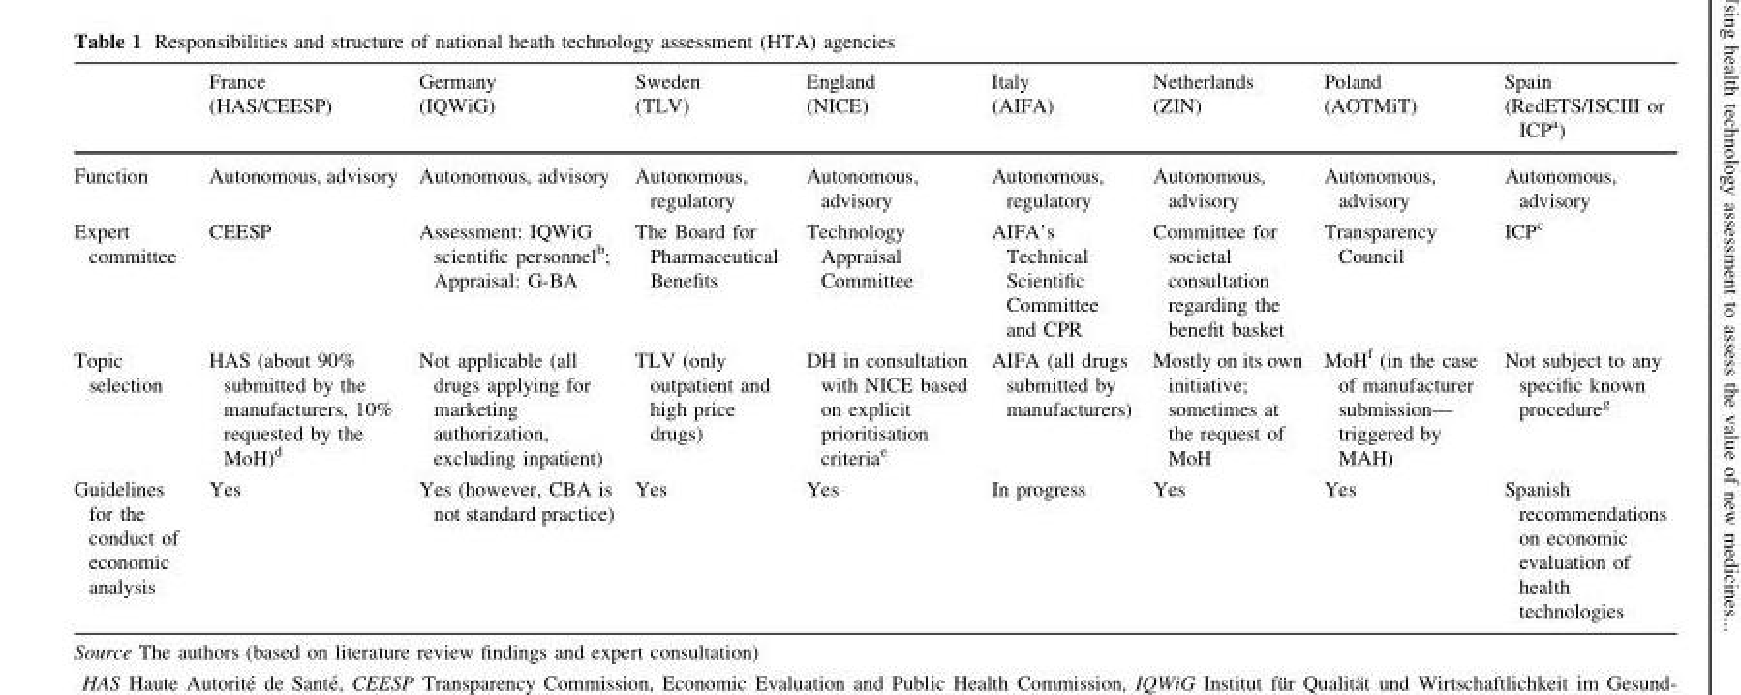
<table><thead><tr><td></td><td>France (HAS/CEESP)</td><td>Germany (IQWiG)</td><td>Sweden (TLV)</td><td>England (NICE)</td><td>Italy (AIFA)</td><td>Netherlands (ZIN)</td><td>Poland (AOTMiT)</td><td>Spain (RedETS/ISCIII or ICP<sup>a</sup>)</td></tr></thead><tbody><tr><td>Function</td><td>Autonomous, advisory</td><td>Autonomous, advisory</td><td>Autonomous, regulatory</td><td>Autonomous, advisory</td><td>Autonomous, regulatory</td><td>Autonomous, advisory</td><td>Autonomous, advisory</td><td>Autonomous, advisory</td></tr><tr><td>Expert committee</td><td>CEESP</td><td>Assessment: IQWiG scientific personnel<sup>b</sup>; Appraisal: G-BA</td><td>The Board for Pharmaceutical Benefits</td><td>Technology Appraisal Committee</td><td>AIFA’s Technical Scientific Committee and CPR</td><td>Committee for societal consultation regarding the benefit basket</td><td>Transparency Council</td><td>ICP<sup>c</sup></td></tr><tr><td>Topic selection</td><td>HAS (about 90% submitted by the manufacturers, 10% requested by the MoH)<sup>d</sup></td><td>Not applicable (all drugs applying for marketing authorization, excluding inpatient)</td><td>TLV (only outpatient and high price drugs)</td><td>DH in consultation with NICE based on explicit prioritisation criteria<sup>e</sup></td><td>AIFA (all drugs submitted by manufacturers)</td><td>Mostly on its own initiative; sometimes at the request of MoH</td><td>MoH<sup>f</sup> (in the case of manufacturer submission— triggered by MAH)</td><td>Not subject to any specific known procedure<sup>g</sup></td></tr><tr><td>Guidelines for the conduct of economic analysis</td><td>Yes</td><td>Yes (however, CBA is not standard practice)</td><td>Yes</td><td>Yes</td><td>In progress</td><td>Yes</td><td>Yes</td><td>Spanish recommendations on economic evaluation of health technologies</td></tr></tbody></table>